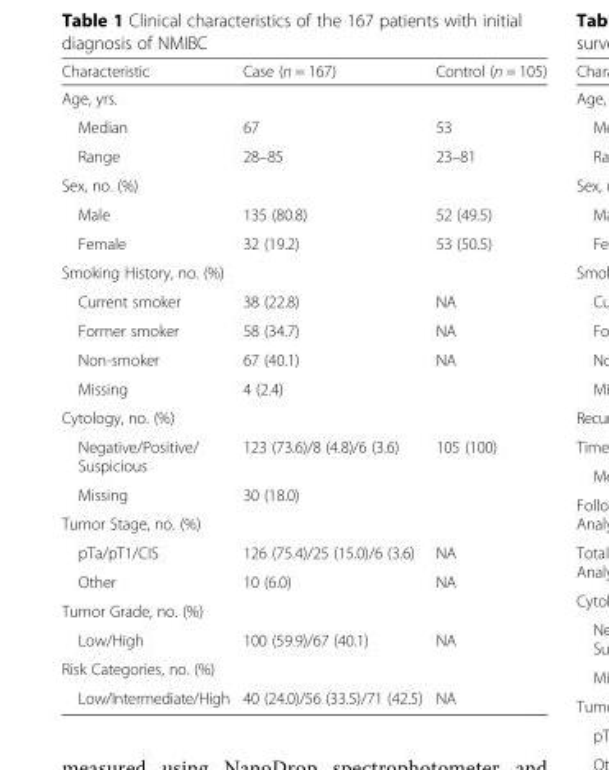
<table><thead><tr><td>Characteristic</td><td>Case (n = 167)</td><td>Control (n = 105)</td></tr></thead><tbody><tr><td colspan="3">Age, yrs.</td></tr><tr><td>Median</td><td>67</td><td>53</td></tr><tr><td>Range</td><td>28–85</td><td>23–81</td></tr><tr><td colspan="3">Sex, no. (%)</td></tr><tr><td>Male</td><td>135 (80.8)</td><td>52 (49.5)</td></tr><tr><td>Female</td><td>32 (19.2)</td><td>53 (50.5)</td></tr><tr><td colspan="3">Smoking History, no. (%)</td></tr><tr><td>Current smoker</td><td>38 (22.8)</td><td>NA</td></tr><tr><td>Former smoker</td><td>58 (34.7)</td><td>NA</td></tr><tr><td>Non-smoker</td><td>67 (40.1)</td><td>NA</td></tr><tr><td>Missing</td><td>4 (2.4)</td><td></td></tr><tr><td colspan="3">Cytology, no. (%)</td></tr><tr><td>Negative/Positive/ Suspicious</td><td>123 (73.6)/8 (4.8)/6 (3.6)</td><td>105 (100)</td></tr><tr><td>Missing</td><td>30 (18.0)</td><td></td></tr><tr><td colspan="3">Tumor Stage, no. (%)</td></tr><tr><td>pTa/pT1/CIS</td><td>126 (75.4)/25 (15.0)/6 (3.6)</td><td>NA</td></tr><tr><td>Other</td><td>10 (6.0)</td><td>NA</td></tr><tr><td colspan="3">Tumor Grade, no. (%)</td></tr><tr><td>Low/High</td><td>100 (59.9)/67 (40.1)</td><td>NA</td></tr><tr><td colspan="3">Risk Categories, no. (%)</td></tr><tr><td>Low/Intermediate/High</td><td>40 (24.0)/56 (33.5)/71 (42.5)</td><td>NA</td></tr></tbody></table>